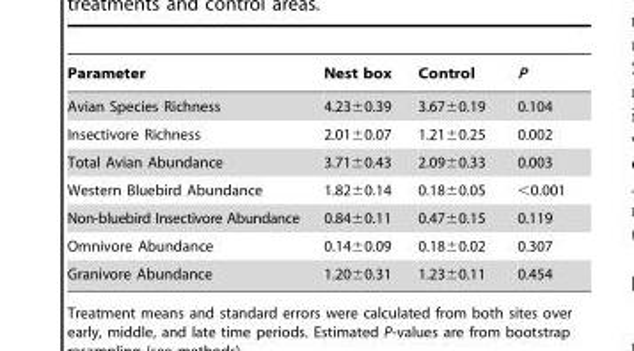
<table><thead><tr><td>Parameter</td><td>Nest box</td><td>Control</td><td>P</td></tr></thead><tbody><tr><td>Avian Species Richness</td><td>4.23±0.39</td><td>3.67±0.19</td><td>0.104</td></tr><tr><td>Insectivore Richness</td><td>2.01±0.07</td><td>1.21±0.25</td><td>0.002</td></tr><tr><td>Total Avian Abundance</td><td>3.71±0.43</td><td>2.09±0.33</td><td>0.003</td></tr><tr><td>Western Bluebird Abundance</td><td>1.82±0.14</td><td>0.18±0.05</td><td>&lt;0.001</td></tr><tr><td>Non-bluebird Insectivore Abundance</td><td>0.84±0.11</td><td>0.47±0.15</td><td>0.119</td></tr><tr><td>Omnivore Abundance</td><td>0.14±0.09</td><td>0.18±0.02</td><td>0.307</td></tr><tr><td>Granivore Abundance</td><td>1.20±0.31</td><td>1.23±0.11</td><td>0.454</td></tr></tbody></table>